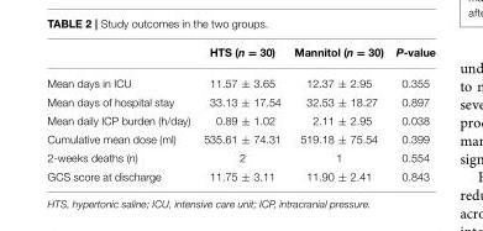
<table><thead><tr><td></td><td>HTS (n = 30)</td><td>Mannitol (n = 30)</td><td>P-value</td></tr></thead><tbody><tr><td>Mean days in ICU</td><td>11.57 ± 3.65</td><td>12.37 ± 2.95</td><td>0.355</td></tr><tr><td>Mean days of hospital stay</td><td>33.13 ± 17.54</td><td>32.53 ± 18.27</td><td>0.897</td></tr><tr><td>Mean daily ICP burden (h/day)</td><td>0.89 ± 1.02</td><td>2.11 ± 2.95</td><td>0.038</td></tr><tr><td>Cumulative mean dose (ml)</td><td>535.61 ± 74.31</td><td>519.18 ± 75.54</td><td>0.399</td></tr><tr><td>2-weeks deaths (n)</td><td>2</td><td>1</td><td>0.554</td></tr><tr><td>GCS score at discharge</td><td>11.75 ± 3.11</td><td>11.90 ± 2.41</td><td>0.843</td></tr></tbody></table>